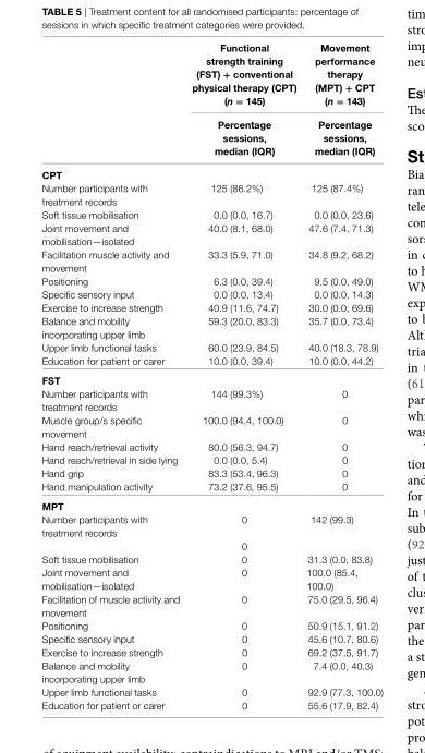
<table><thead><tr><td rowspan="2"></td><td rowspan="2">Functional strength training (FsT) + conventional physical therapy (cPT) (n = 145) Percentage sessions, median (iQr)</td><td rowspan="2">Movement performance therapy (MPT) + cPT (n = 143) Percentage sessions, median (iQr)</td></tr><tr></tr></thead><tbody><tr><td colspan="3">cPT</td></tr><tr><td>Number participants with treatment records</td><td>125 (86.2%)</td><td>125 (87.4%)</td></tr><tr><td>Soft tissue mobilisation</td><td>0.0 (0.0, 16.7)</td><td>0.0 (0.0, 23.6)</td></tr><tr><td>Joint movement and mobilisation—isolated</td><td>40.0 (8.1, 68.0)</td><td>47.6 (7.4, 71.3)</td></tr><tr><td>Facilitation muscle activity and movement</td><td>33.3 (5.9, 71.0)</td><td>34.8 (9.2, 68.2)</td></tr><tr><td>Positioning</td><td>6.3 (0.0, 39.4)</td><td>9.5 (0.0, 49.0)</td></tr><tr><td>Specific sensory input</td><td>0.0 (0.0, 13.4)</td><td>0.0 (0.0, 14.3)</td></tr><tr><td>Exercise to increase strength</td><td>40.9 (11.6, 74.7)</td><td>30.0 (0.0, 69.6)</td></tr><tr><td>Balance and mobility incorporating upper limb</td><td>59.3 (20.0, 83.3)</td><td>35.7 (0.0, 73.4)</td></tr><tr><td>Upper limb functional tasks</td><td>60.0 (23.9, 84.5)</td><td>40.0 (18.3, 78.9)</td></tr><tr><td>Education for patient or carer</td><td>10.0 (0.0, 39.4)</td><td>10.0 (0.0, 44.2)</td></tr><tr><td colspan="3">FsT</td></tr><tr><td>Number participants with treatment records</td><td>144 (99.3%)</td><td>0</td></tr><tr><td>Muscle group/s specific movement</td><td>100.0 (94.4, 100.0)</td><td>0</td></tr><tr><td>Hand reach/retrieval activity</td><td>80.0 (56.3, 94.7)</td><td>0</td></tr><tr><td>Hand reach/retrieval in side lying</td><td>0.0 (0.0, 5.4)</td><td>0</td></tr><tr><td>Hand grip</td><td>83.3 (53.4, 96.3)</td><td>0</td></tr><tr><td>Hand manipulation activity</td><td>73.2 (37.6, 95.5)</td><td>0</td></tr><tr><td colspan="3">MPT</td></tr><tr><td rowspan="2">Number participants with treatment records</td><td>0</td><td>142 (99.3)</td></tr><tr><td>0</td><td></td></tr><tr><td>Soft tissue mobilisation</td><td>0</td><td>31.3 (0.0, 83.8)</td></tr><tr><td>Joint movement and mobilisation—isolated</td><td>0</td><td>100.0 (85.4, 100.0)</td></tr><tr><td>Facilitation of muscle activity and movement</td><td>0</td><td>75.0 (29.5, 96.4)</td></tr><tr><td>Positioning</td><td>0</td><td>50.9 (15.1, 91.2)</td></tr><tr><td>Specific sensory input</td><td>0</td><td>45.6 (10.7, 80.6)</td></tr><tr><td>Exercise to increase strength</td><td>0</td><td>69.2 (37.5, 91.7)</td></tr><tr><td>Balance and mobility incorporating upper limb</td><td>0</td><td>7.4 (0.0, 40.3)</td></tr><tr><td>Upper limb functional tasks</td><td>0</td><td>92.9 (77.3, 100.0)</td></tr><tr><td>Education for patient or carer</td><td>0</td><td>55.6 (17.9, 82.4)</td></tr></tbody></table>